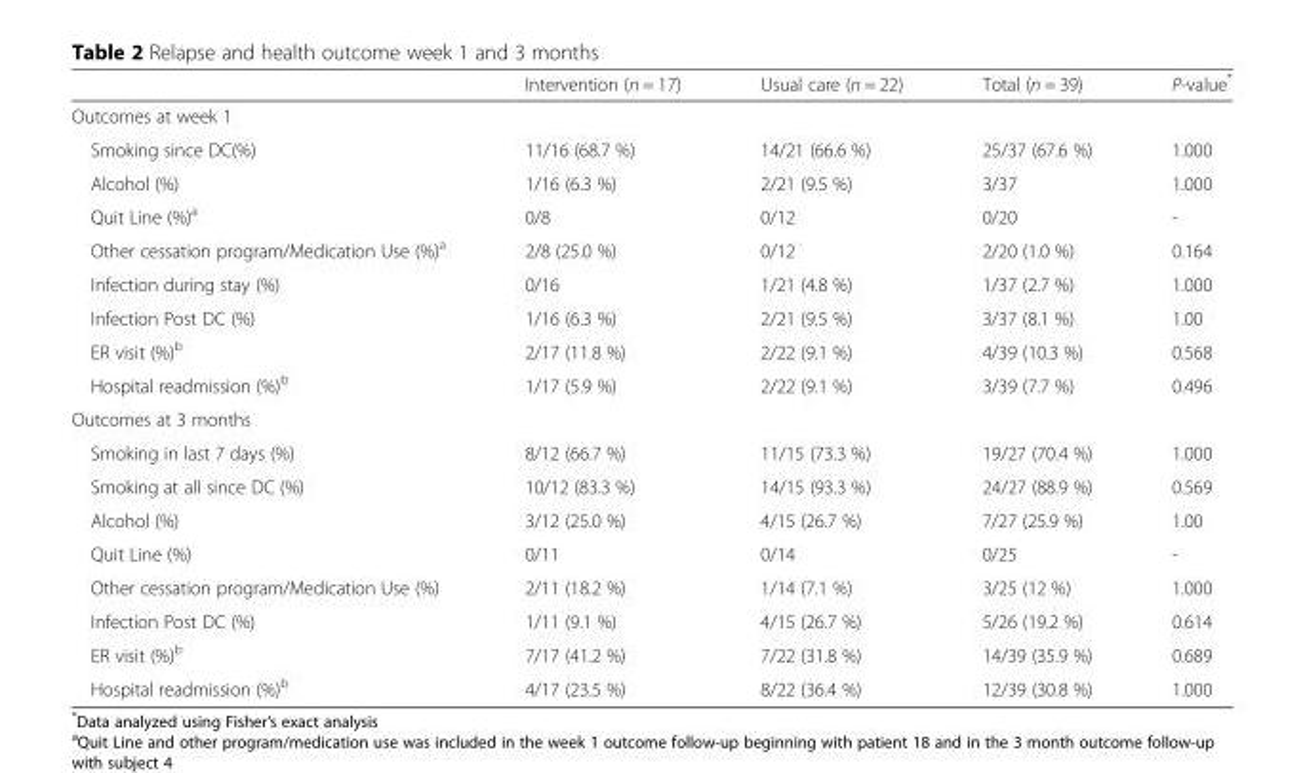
<table><thead><tr><td></td><td>Intervention (n = 17)</td><td>Usual care (n = 22)</td><td>Total (n = 39)</td><td>P-value*</td></tr></thead><tbody><tr><td colspan="5">Outcomes at week 1</td></tr><tr><td>Smoking since DC(%)</td><td>11/16 (68.7 %)</td><td>14/21 (66.6 %)</td><td>25/37 (67.6 %)</td><td>1.000</td></tr><tr><td>Alcohol (%)</td><td>1/16 (6.3 %)</td><td>2/21 (9.5 %)</td><td>3/37</td><td>1.000</td></tr><tr><td>Quit Line (%)<sup>a</sup></td><td>0/8</td><td>0/12</td><td>0/20</td><td>-</td></tr><tr><td>Other cessation program/Medication Use (%)<sup>a</sup></td><td>2/8 (25.0 %)</td><td>0/12</td><td>2/20 (1.0 %)</td><td>0.164</td></tr><tr><td>Infection during stay (%)</td><td>0/16</td><td>1/21 (4.8 %)</td><td>1/37 (2.7 %)</td><td>1.000</td></tr><tr><td>Infection Post DC (%)</td><td>1/16 (6.3 %)</td><td>2/21 (9.5 %)</td><td>3/37 (8.1 %)</td><td>1.00</td></tr><tr><td>ER visit (%)<sup>b</sup></td><td>2/17 (11.8 %)</td><td>2/22 (9.1 %)</td><td>4/39 (10.3 %)</td><td>0.568</td></tr><tr><td>Hospital readmission (%)<sup>b</sup></td><td>1/17 (5.9 %)</td><td>2/22 (9.1 %)</td><td>3/39 (7.7 %)</td><td>0.496</td></tr><tr><td colspan="5">Outcomes at 3 months</td></tr><tr><td>Smoking in last 7 days (%)</td><td>8/12 (66.7 %)</td><td>11/15 (73.3 %)</td><td>19/27 (70.4 %)</td><td>1.000</td></tr><tr><td>Smoking at all since DC (%)</td><td>10/12 (83.3 %)</td><td>14/15 (93.3 %)</td><td>24/27 (88.9 %)</td><td>0.569</td></tr><tr><td>Alcohol (%)</td><td>3/12 (25.0 %)</td><td>4/15 (26.7 %)</td><td>7/27 (25.9 %)</td><td>1.00</td></tr><tr><td>Quit Line (%)</td><td>0/11</td><td>0/14</td><td>0/25</td><td>-</td></tr><tr><td>Other cessation program/Medication Use (%)</td><td>2/11 (18.2 %)</td><td>1/14 (7.1 %)</td><td>3/25 (12 %)</td><td>1.000</td></tr><tr><td>Infection Post DC (%)</td><td>1/11 (9.1 %)</td><td>4/15 (26.7 %)</td><td>5/26 (19.2 %)</td><td>0.614</td></tr><tr><td>ER visit (%)<sup>b</sup></td><td>7/17 (41.2 %)</td><td>7/22 (31.8 %)</td><td>14/39 (35.9 %)</td><td>0.689</td></tr><tr><td>Hospital readmission (%)<sup>b</sup></td><td>4/17 (23.5 %)</td><td>8/22 (36.4 %)</td><td>12/39 (30.8 %)</td><td>1.000</td></tr></tbody></table>